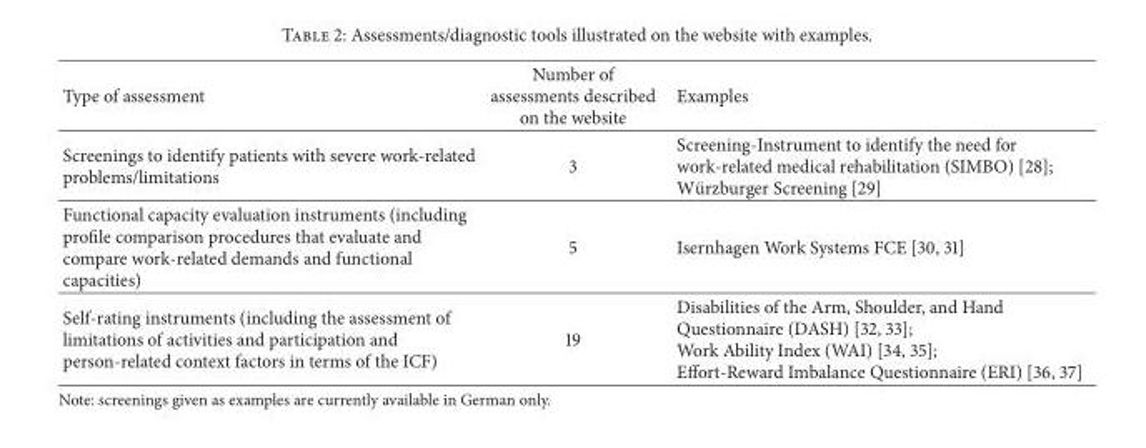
<table><thead><tr><td>Type of assessment</td><td>Number of assessments described on the website</td><td>Examples</td></tr></thead><tbody><tr><td>Screenings to identify patients with severe work-related problems/limitations</td><td>3</td><td>Screening-Instrument to identify the need for work-related medical rehabilitation (SIMBO) [28]; W¨urzburger Screening [29]</td></tr><tr><td>Functional capacity evaluation instruments (including profile comparison procedures that evaluate and compare work-related demands and functional capacities)</td><td>5</td><td>Isernhagen Work Systems FCE [30, 31]</td></tr><tr><td>Self-rating instruments (including the assessment of limitations of activities and participation and person-related context factors in terms of the ICF)</td><td>19</td><td>Disabilities of the Arm, Shoulder, and Hand Questionnaire (DASH) [32, 33]; Work Ability Index (WAI) [34, 35]; Effort-Reward Imbalance Questionnaire (ERI) [36, 37]</td></tr></tbody></table>